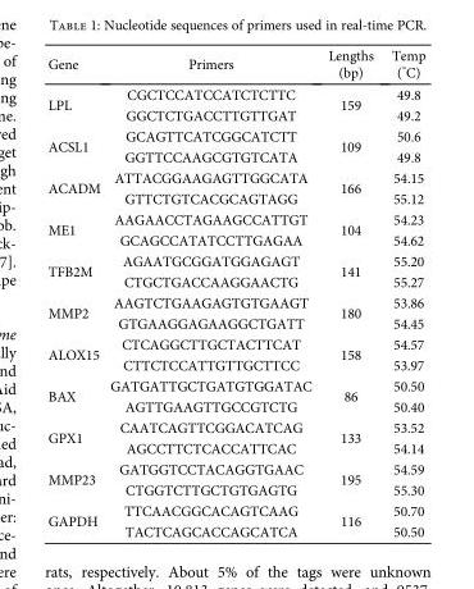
<table><thead><tr><td>Gene</td><td>Primers</td><td>Lengths (bp)</td><td>Temp (°C)</td></tr></thead><tbody><tr><td rowspan="2">LPL</td><td>CGCTCCATCCATCTCTTC</td><td rowspan="2">159</td><td>49.8</td></tr><tr><td>GGCTCTGACCTTGTTGAT</td><td>49.2</td></tr><tr><td rowspan="2">ACSL1</td><td>GCAGTTCATCGGCATCTT</td><td rowspan="2">109</td><td>50.6</td></tr><tr><td>GGTTCCAAGCGTGTCATA</td><td>49.8</td></tr><tr><td rowspan="2">ACADM</td><td>ATTACGGAAGAGTTGGCATA</td><td rowspan="2">166</td><td>54.15</td></tr><tr><td>GTTCTGTCACGCAGTAGG</td><td>55.12</td></tr><tr><td rowspan="2">ME1</td><td>AAGAACCTAGAAGCCATTGT</td><td rowspan="2">104</td><td>54.23</td></tr><tr><td>GCAGCCATATCCTTGAGAA</td><td>54.62</td></tr><tr><td rowspan="2">TFB2M</td><td>AGAATGCGGATGGAGAGT</td><td rowspan="2">141</td><td>55.20</td></tr><tr><td>CTGCTGACCAAGGAACTG</td><td>55.27</td></tr><tr><td rowspan="2">MMP2</td><td>AAGTCTGAAGAGTGTGAAGT</td><td rowspan="2">180</td><td>53.86</td></tr><tr><td>GTGAAGGAGAAGGCTGATT</td><td>54.45</td></tr><tr><td rowspan="2">ALOX15</td><td>CTCAGGCTTGCTACTTCAT</td><td rowspan="2">158</td><td>54.57</td></tr><tr><td>CTTCTCCATTGTTGCTTCC</td><td>53.97</td></tr><tr><td rowspan="2">BAX</td><td>GATGATTGCTGATGTGGATAC</td><td rowspan="2">86</td><td>50.50</td></tr><tr><td>AGTTGAAGTTGCCGTCTG</td><td>50.40</td></tr><tr><td rowspan="2">GPX1</td><td>CAATCAGTTCGGACATCAG</td><td rowspan="2">133</td><td>53.52</td></tr><tr><td>AGCCTTCTCACCATTCAC</td><td>54.14</td></tr><tr><td rowspan="2">MMP23</td><td>GATGGTCCTACAGGTGAAC</td><td rowspan="2">195</td><td>54.59</td></tr><tr><td>CTGGTCTTGCTGTGAGTG</td><td>55.30</td></tr><tr><td rowspan="2">GAPDH</td><td>TTCAACGGCACAGTCAAG</td><td rowspan="2">116</td><td>50.70</td></tr><tr><td>TACTCAGCACCAGCATCA</td><td>50.50</td></tr></tbody></table>